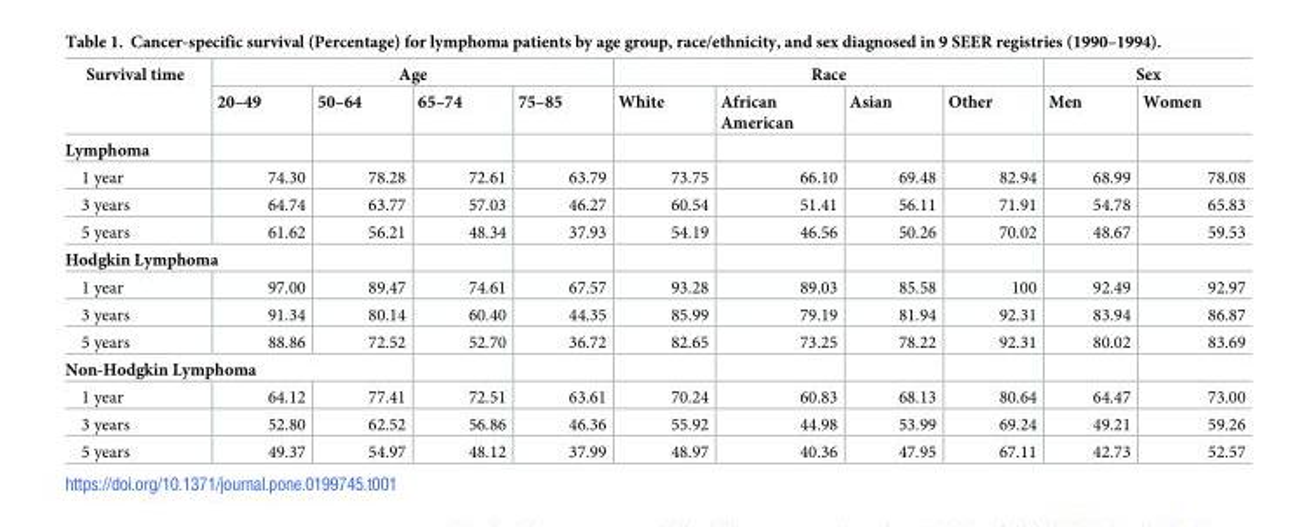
<table><thead><tr><td rowspan="2">Survival time</td><td colspan="4">Age</td><td colspan="4">Race</td><td colspan="2">Sex</td></tr><tr><td>20–49</td><td>50–64</td><td>65–74</td><td>75–85</td><td>White</td><td>African American</td><td>Asian</td><td>Other</td><td>Men</td><td>Women</td></tr></thead><tbody><tr><td colspan="11">Lymphoma</td></tr><tr><td>1 year</td><td>74.30</td><td>78.28</td><td>72.61</td><td>63.79</td><td>73.75</td><td>66.10</td><td>69.48</td><td>82.94</td><td>68.99</td><td>78.08</td></tr><tr><td>3 years</td><td>64.74</td><td>63.77</td><td>57.03</td><td>46.27</td><td>60.54</td><td>51.41</td><td>56.11</td><td>71.91</td><td>54.78</td><td>65.83</td></tr><tr><td>5 years</td><td>61.62</td><td>56.21</td><td>48.34</td><td>37.93</td><td>54.19</td><td>46.56</td><td>50.26</td><td>70.02</td><td>48.67</td><td>59.53</td></tr><tr><td colspan="11">Hodgkin Lymphoma</td></tr><tr><td>1 year</td><td>97.00</td><td>89.47</td><td>74.61</td><td>67.57</td><td>93.28</td><td>89.03</td><td>85.58</td><td>100</td><td>92.49</td><td>92.97</td></tr><tr><td>3 years</td><td>91.34</td><td>80.14</td><td>60.40</td><td>44.35</td><td>85.99</td><td>79.19</td><td>81.94</td><td>92.31</td><td>83.94</td><td>86.87</td></tr><tr><td>5 years</td><td>88.86</td><td>72.52</td><td>52.70</td><td>36.72</td><td>82.65</td><td>73.25</td><td>78.22</td><td>92.31</td><td>80.02</td><td>83.69</td></tr><tr><td colspan="11">Non-Hodgkin Lymphoma</td></tr><tr><td>1 year</td><td>64.12</td><td>77.41</td><td>72.51</td><td>63.61</td><td>70.24</td><td>60.83</td><td>68.13</td><td>80.64</td><td>64.47</td><td>73.00</td></tr><tr><td>3 years</td><td>52.80</td><td>62.52</td><td>56.86</td><td>46.36</td><td>55.92</td><td>44.98</td><td>53.99</td><td>69.24</td><td>49.21</td><td>59.26</td></tr><tr><td>5 years</td><td>49.37</td><td>54.97</td><td>48.12</td><td>37.99</td><td>48.97</td><td>40.36</td><td>47.95</td><td>67.11</td><td>42.73</td><td>52.57</td></tr></tbody></table>